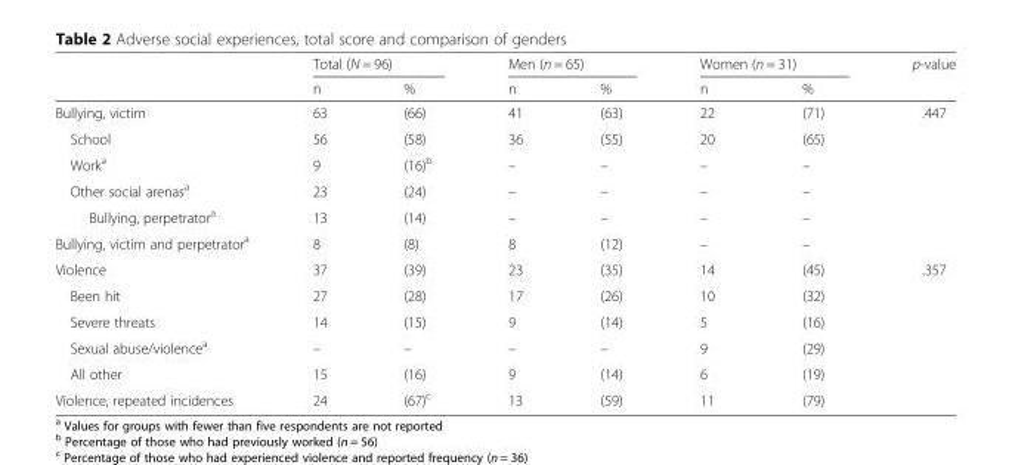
<table><thead><tr><td rowspan="2"></td><td colspan="2">Total (N = 96)</td><td colspan="2">Men (n = 65)</td><td colspan="2">Women (n = 31)</td><td rowspan="2">p-value</td></tr><tr><td>n</td><td>%</td><td>n</td><td>%</td><td>n</td><td>%</td></tr></thead><tbody><tr><td>Bullying, victim</td><td>63</td><td>(66)</td><td>41</td><td>(63)</td><td>22</td><td>(71)</td><td>.447</td></tr><tr><td>School</td><td>56</td><td>(58)</td><td>36</td><td>(55)</td><td>20</td><td>(65)</td><td></td></tr><tr><td>Work<sup>a</sup></td><td>9</td><td>(16)<sup>b</sup></td><td>–</td><td>–</td><td>–</td><td>–</td><td></td></tr><tr><td>Other social arenas<sup>a</sup></td><td>23</td><td>(24)</td><td>–</td><td>–</td><td>–</td><td>–</td><td></td></tr><tr><td>Bullying, perpetrator<sup>a</sup></td><td>13</td><td>(14)</td><td>–</td><td>–</td><td>–</td><td>–</td><td></td></tr><tr><td>Bullying, victim and perpetrator<sup>a</sup></td><td>8</td><td>(8)</td><td>8</td><td>(12)</td><td>–</td><td>–</td><td></td></tr><tr><td>Violence</td><td>37</td><td>(39)</td><td>23</td><td>(35)</td><td>14</td><td>(45)</td><td>.357</td></tr><tr><td>Been hit</td><td>27</td><td>(28)</td><td>17</td><td>(26)</td><td>10</td><td>(32)</td><td></td></tr><tr><td>Severe threats</td><td>14</td><td>(15)</td><td>9</td><td>(14)</td><td>5</td><td>(16)</td><td></td></tr><tr><td>Sexual abuse/violence<sup>a</sup></td><td>–</td><td>–</td><td>–</td><td>–</td><td>9</td><td>(29)</td><td></td></tr><tr><td>All other</td><td>15</td><td>(16)</td><td>9</td><td>(14)</td><td>6</td><td>(19)</td><td></td></tr><tr><td>Violence, repeated incidences</td><td>24</td><td>(67)<sup>c</sup></td><td>13</td><td>(59)</td><td>11</td><td>(79)</td><td></td></tr></tbody></table>